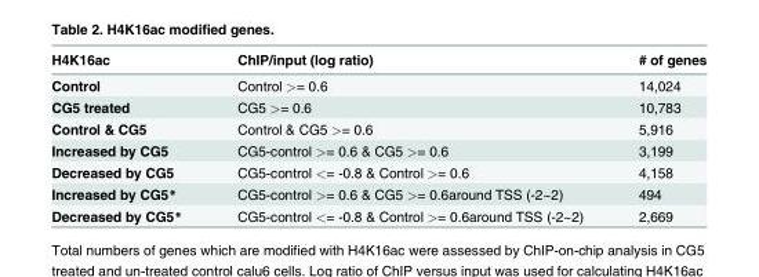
<table><thead><tr><td>H4K16ac</td><td>ChIP/input (log ratio)</td><td># of genes</td></tr></thead><tbody><tr><td>Control</td><td>Control &gt;= 0.6</td><td>14,024</td></tr><tr><td>CG5 treated</td><td>CG5 &gt;= 0.6</td><td>10,783</td></tr><tr><td>Control &amp; CG5</td><td>Control &amp; CG5 &gt;= 0.6</td><td>5,916</td></tr><tr><td>Increased by CG5</td><td>CG5-control &gt;= 0.6 &amp; CG5 &gt;= 0.6</td><td>3,199</td></tr><tr><td>Decreased by CG5</td><td>CG5-control &lt;= -0.8 &amp; Control &gt;= 0.6</td><td>4,158</td></tr><tr><td>Increased by CG5*</td><td>CG5-control &gt;= 0.6 &amp; CG5 &gt;= 0.6around TSS (-2~2)</td><td>494</td></tr><tr><td>Decreased by CG5*</td><td>CG5-control &lt;= -0.8 &amp; Control &gt;= 0.6around TSS (-2~2)</td><td>2,669</td></tr></tbody></table>